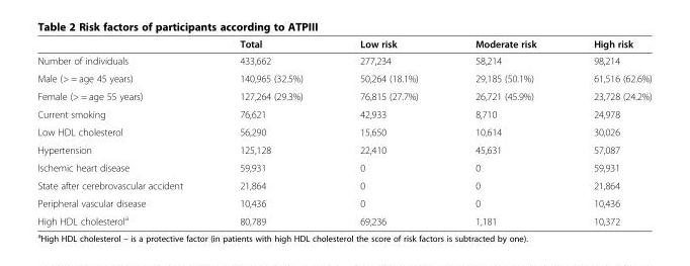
<table><thead><tr><td></td><td>Total</td><td>Low risk</td><td>Moderate risk</td><td>High risk</td></tr></thead><tbody><tr><td>Number of individuals</td><td>433,662</td><td>277,234</td><td>58,214</td><td>98,214</td></tr><tr><td>Male (&gt; = age 45 years)</td><td>140,965 (32.5%)</td><td>50,264 (18.1%)</td><td>29,185 (50.1%)</td><td>61,516 (62.6%)</td></tr><tr><td>Female (&gt; = age 55 years)</td><td>127,264 (29.3%)</td><td>76,815 (27.7%)</td><td>26,721 (45.9%)</td><td>23,728 (24.2%)</td></tr><tr><td>Current smoking</td><td>76,621</td><td>42,933</td><td>8,710</td><td>24,978</td></tr><tr><td>Low HDL cholesterol</td><td>56,290</td><td>15,650</td><td>10,614</td><td>30,026</td></tr><tr><td>Hypertension</td><td>125,128</td><td>22,410</td><td>45,631</td><td>57,087</td></tr><tr><td>Ischemic heart disease</td><td>59,931</td><td>0</td><td>0</td><td>59,931</td></tr><tr><td>State after cerebrovascular accident</td><td>21,864</td><td>0</td><td>0</td><td>21,864</td></tr><tr><td>Peripheral vascular disease</td><td>10,436</td><td>0</td><td>0</td><td>10,436</td></tr><tr><td>High HDL cholesterol<sup>a</sup></td><td>80,789</td><td>69,236</td><td>1,181</td><td>10,372</td></tr></tbody></table>